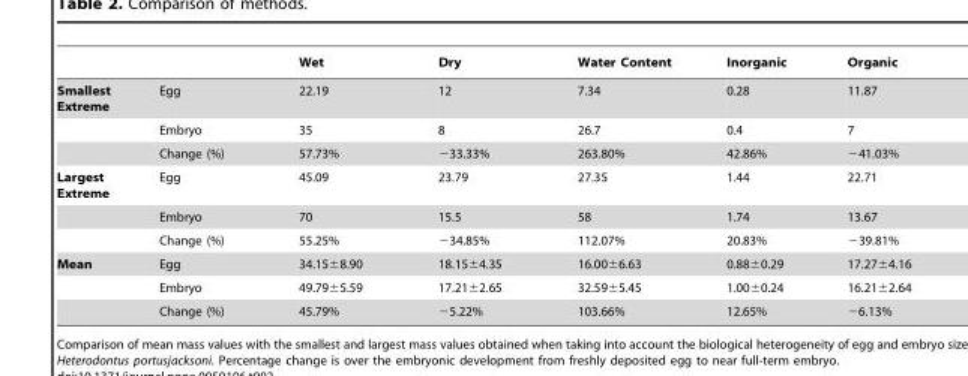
<table><thead><tr><td></td><td></td><td>Wet</td><td>Dry</td><td>Water Content</td><td>Inorganic</td><td>Organic</td></tr></thead><tbody><tr><td rowspan="3">Smallest Extreme</td><td>Egg</td><td>22.19</td><td>12</td><td>7.34</td><td>0.28</td><td>11.87</td></tr><tr><td>Embryo</td><td>35</td><td>8</td><td>26.7</td><td>0.4</td><td>7</td></tr><tr><td>Change (%)</td><td>57.73%</td><td>−33.33%</td><td>263.80%</td><td>42.86%</td><td>−41.03%</td></tr><tr><td rowspan="3">Largest Extreme</td><td>Egg</td><td>45.09</td><td>23.79</td><td>27.35</td><td>1.44</td><td>22.71</td></tr><tr><td>Embryo</td><td>70</td><td>15.5</td><td>58</td><td>1.74</td><td>13.67</td></tr><tr><td>Change (%)</td><td>55.25%</td><td>−34.85%</td><td>112.07%</td><td>20.83%</td><td>−39.81%</td></tr><tr><td rowspan="3">Mean</td><td>Egg</td><td>34.15±8.90</td><td>18.15±4.35</td><td>16.00±6.63</td><td>0.88±0.29</td><td>17.27±4.16</td></tr><tr><td>Embryo</td><td>49.79±5.59</td><td>17.21±2.65</td><td>32.59±5.45</td><td>1.00±0.24</td><td>16.21±2.64</td></tr><tr><td>Change (%)</td><td>45.79%</td><td>−5.22%</td><td>103.66%</td><td>12.65%</td><td>−6.13%</td></tr></tbody></table>